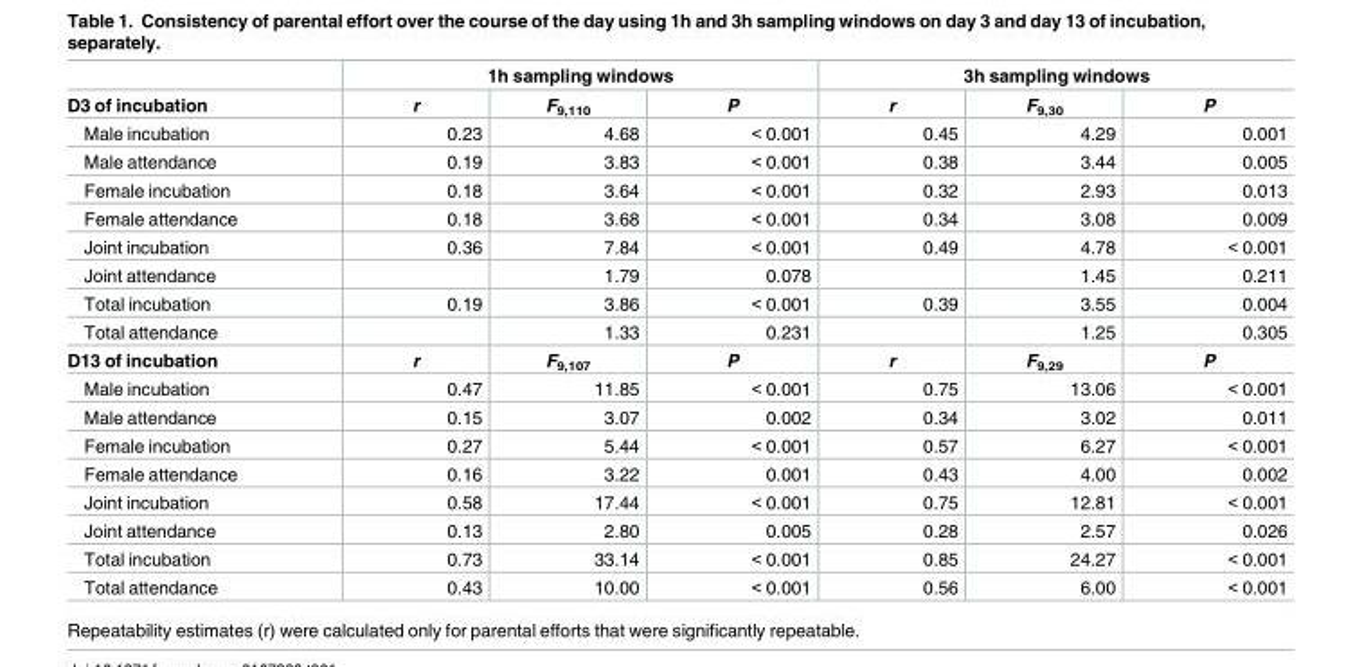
<table><thead><tr><td rowspan="2">D3 of incubation</td><td colspan="3">1h sampling windows</td><td colspan="3">3h sampling windows</td></tr><tr><td>r</td><td>F<sub>9,110</sub></td><td>P</td><td>r</td><td>F<sub>9,30</sub></td><td>P</td></tr></thead><tbody><tr><td>Male incubation</td><td>0.23</td><td>4.68</td><td>&lt; 0.001</td><td>0.45</td><td>4.29</td><td>0.001</td></tr><tr><td>Male attendance</td><td>0.19</td><td>3.83</td><td>&lt; 0.001</td><td>0.38</td><td>3.44</td><td>0.005</td></tr><tr><td>Female incubation</td><td>0.18</td><td>3.64</td><td>&lt; 0.001</td><td>0.32</td><td>2.93</td><td>0.013</td></tr><tr><td>Female attendance</td><td>0.18</td><td>3.68</td><td>&lt; 0.001</td><td>0.34</td><td>3.08</td><td>0.009</td></tr><tr><td>Joint incubation</td><td>0.36</td><td>7.84</td><td>&lt; 0.001</td><td>0.49</td><td>4.78</td><td>&lt; 0.001</td></tr><tr><td>Joint attendance</td><td></td><td>1.79</td><td>0.078</td><td></td><td>1.45</td><td>0.211</td></tr><tr><td>Total incubation</td><td>0.19</td><td>3.86</td><td>&lt; 0.001</td><td>0.39</td><td>3.55</td><td>0.004</td></tr><tr><td>Total attendance</td><td></td><td>1.33</td><td>0.231</td><td></td><td>1.25</td><td>0.305</td></tr><tr><td>D13 of incubation</td><td>r</td><td>F<sub>9,107</sub></td><td>P</td><td>r</td><td>F<sub>9,29</sub></td><td>P</td></tr><tr><td>Male incubation</td><td>0.47</td><td>11.85</td><td>&lt; 0.001</td><td>0.75</td><td>13.06</td><td>&lt; 0.001</td></tr><tr><td>Male attendance</td><td>0.15</td><td>3.07</td><td>0.002</td><td>0.34</td><td>3.02</td><td>0.011</td></tr><tr><td>Female incubation</td><td>0.27</td><td>5.44</td><td>&lt; 0.001</td><td>0.57</td><td>6.27</td><td>&lt; 0.001</td></tr><tr><td>Female attendance</td><td>0.16</td><td>3.22</td><td>0.001</td><td>0.43</td><td>4.00</td><td>0.002</td></tr><tr><td>Joint incubation</td><td>0.58</td><td>17.44</td><td>&lt; 0.001</td><td>0.75</td><td>12.81</td><td>&lt; 0.001</td></tr><tr><td>Joint attendance</td><td>0.13</td><td>2.80</td><td>0.005</td><td>0.28</td><td>2.57</td><td>0.026</td></tr><tr><td>Total incubation</td><td>0.73</td><td>33.14</td><td>&lt; 0.001</td><td>0.85</td><td>24.27</td><td>&lt; 0.001</td></tr><tr><td>Total attendance</td><td>0.43</td><td>10.00</td><td>&lt; 0.001</td><td>0.56</td><td>6.00</td><td>&lt; 0.001</td></tr></tbody></table>